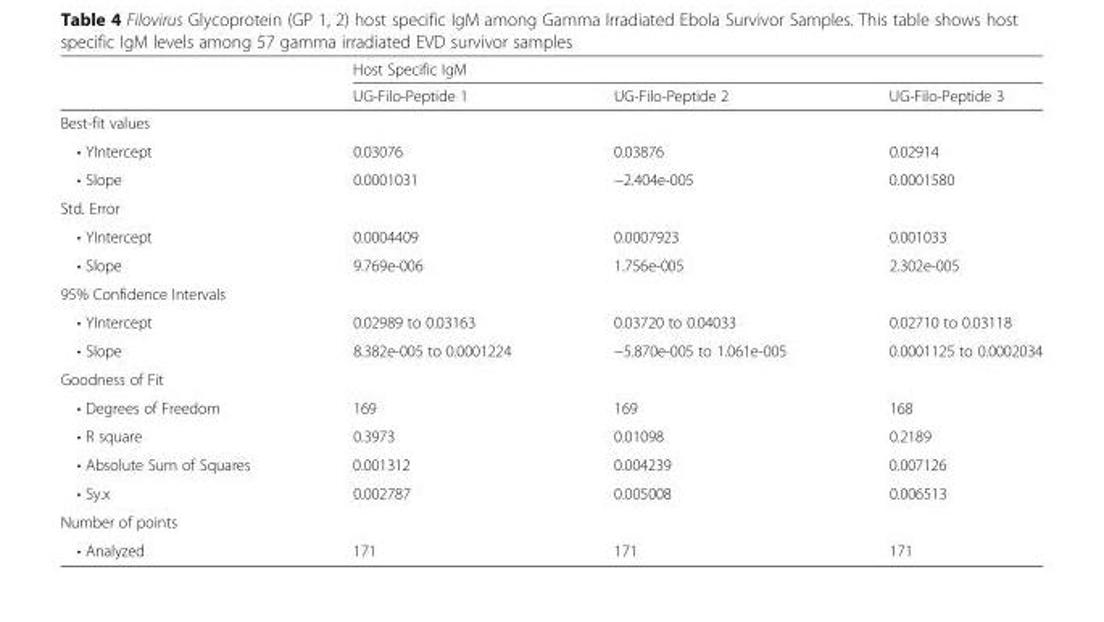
<table><thead><tr><td rowspan="2"></td><td colspan="3">Host Specific IgM</td></tr><tr><td>UG-Filo-Peptide 1</td><td>UG-Filo-Peptide 2</td><td>UG-Filo-Peptide 3</td></tr></thead><tbody><tr><td colspan="4">Best-fit values</td></tr><tr><td>• YIntercept</td><td>0.03076</td><td>0.03876</td><td>0.02914</td></tr><tr><td>• Slope</td><td>0.0001031</td><td>−2.404e-005</td><td>0.0001580</td></tr><tr><td colspan="4">Std. Error</td></tr><tr><td>• YIntercept</td><td>0.0004409</td><td>0.0007923</td><td>0.001033</td></tr><tr><td>• Slope</td><td>9.769e-006</td><td>1.756e-005</td><td>2.302e-005</td></tr><tr><td colspan="4">95% Confidence Intervals</td></tr><tr><td>• YIntercept</td><td>0.02989 to 0.03163</td><td>0.03720 to 0.04033</td><td>0.02710 to 0.03118</td></tr><tr><td>• Slope</td><td>8.382e-005 to 0.0001224</td><td>−5.870e-005 to 1.061e-005</td><td>0.0001125 to 0.0002034</td></tr><tr><td colspan="4">Goodness of Fit</td></tr><tr><td>• Degrees of Freedom</td><td>169</td><td>169</td><td>168</td></tr><tr><td>• R square</td><td>0.3973</td><td>0.01098</td><td>0.2189</td></tr><tr><td>• Absolute Sum of Squares</td><td>0.001312</td><td>0.004239</td><td>0.007126</td></tr><tr><td>• Sy.x</td><td>0.002787</td><td>0.005008</td><td>0.006513</td></tr><tr><td colspan="4">Number of points</td></tr><tr><td>• Analyzed</td><td>171</td><td>171</td><td>171</td></tr></tbody></table>